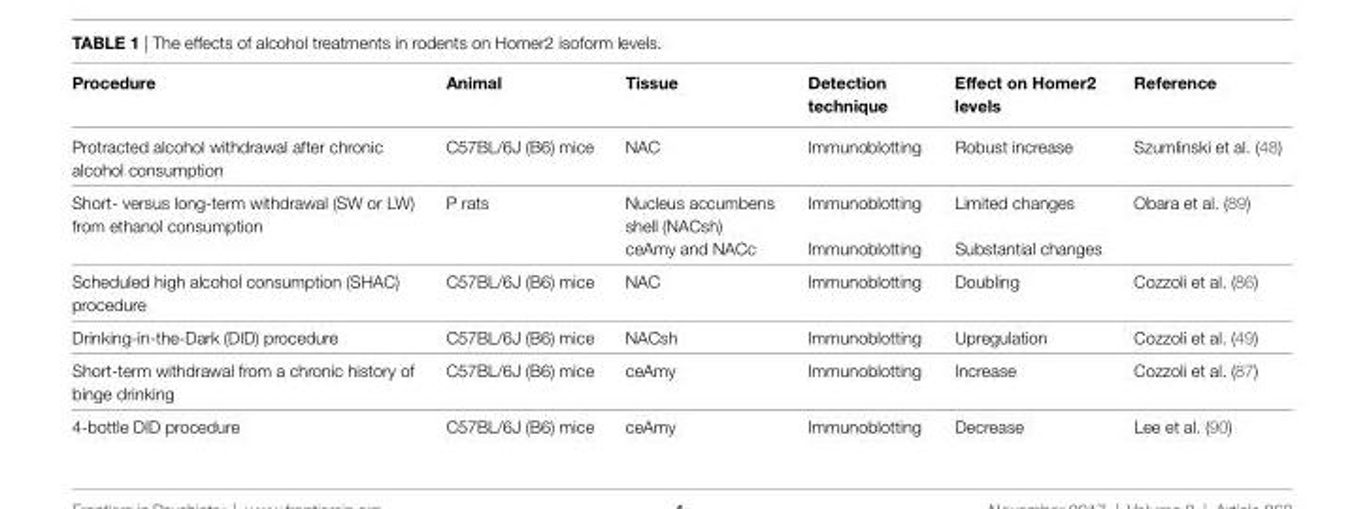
<table><thead><tr><td>Procedure</td><td>Animal</td><td>Tissue</td><td>Detection technique</td><td>effect on Homer2 levels</td><td>Reference</td></tr></thead><tbody><tr><td>Protracted alcohol withdrawal after chronic alcohol consumption</td><td>C57BL/6J (B6) mice</td><td>NAC</td><td>Immunoblotting</td><td>Robust increase</td><td>Szumlinski et al. (48)</td></tr><tr><td rowspan="2">Short- versus long-term withdrawal (SW or LW) from ethanol consumption</td><td rowspan="2">P rats</td><td>Nucleus accumbens shell (NACsh)</td><td>Immunoblotting</td><td>Limited changes</td><td rowspan="2">Obara et al. (89)</td></tr><tr><td>ceAmy and NACc</td><td>Immunoblotting</td><td>Substantial changes</td></tr><tr><td>Scheduled high alcohol consumption (SHAC) procedure</td><td>C57BL/6J (B6) mice</td><td>NAC</td><td>Immunoblotting</td><td>Doubling</td><td>Cozzoli et al. (86)</td></tr><tr><td>Drinking-in-the-Dark (DID) procedure</td><td>C57BL/6J (B6) mice</td><td>NACsh</td><td>Immunoblotting</td><td>Upregulation</td><td>Cozzoli et al. (49)</td></tr><tr><td>Short-term withdrawal from a chronic history of binge drinking</td><td>C57BL/6J (B6) mice</td><td>ceAmy</td><td>Immunoblotting</td><td>Increase</td><td>Cozzoli et al. (87)</td></tr><tr><td>4-bottle DID procedure</td><td>C57BL/6J (B6) mice</td><td>ceAmy</td><td>Immunoblotting</td><td>Decrease</td><td>Lee et al. (90)</td></tr></tbody></table>